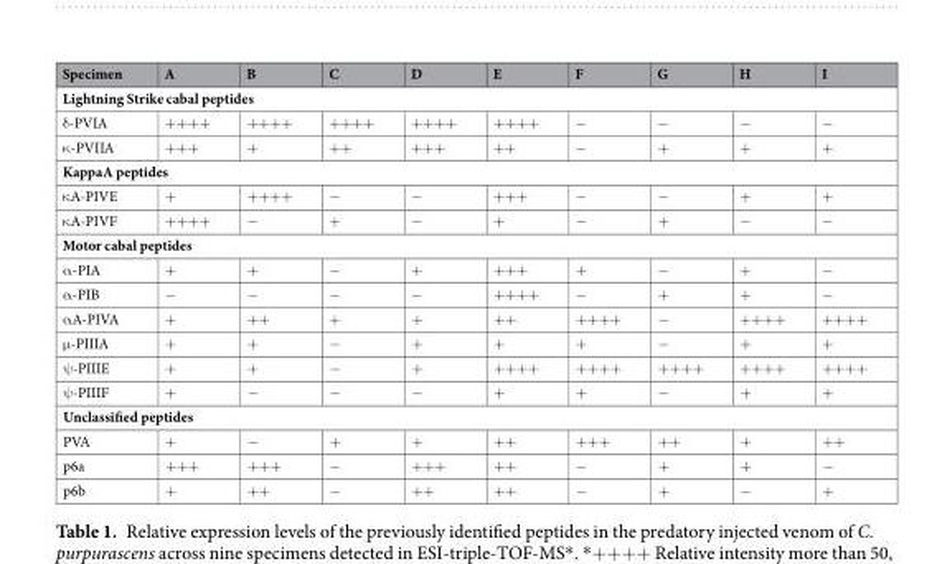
<table><thead><tr><td>Specimen</td><td>A</td><td>B</td><td>C</td><td>D</td><td>E</td><td>F</td><td>G</td><td>H</td><td>I</td></tr></thead><tbody><tr><td colspan="10">Lightning Strike cabal peptides</td></tr><tr><td>δ-PVIA</td><td>++++</td><td>++++</td><td>++++</td><td>++++</td><td>++++</td><td>−</td><td>−</td><td>−</td><td>−</td></tr><tr><td>κ-PVIIA</td><td>+++</td><td>+</td><td>++</td><td>+++</td><td>++</td><td>−</td><td>+</td><td>+</td><td>+</td></tr><tr><td colspan="10">KappaA peptides</td></tr><tr><td>κA-PIVE</td><td>+</td><td>++++</td><td>−</td><td>−</td><td>+++</td><td>−</td><td>−</td><td>+</td><td>+</td></tr><tr><td>κA-PIVF</td><td>++++</td><td>−</td><td>+</td><td>−</td><td>+</td><td>−</td><td>+</td><td>−</td><td>−</td></tr><tr><td colspan="10">Motor cabal peptides</td></tr><tr><td>α-PIA</td><td>+</td><td>+</td><td>−</td><td>+</td><td>+++</td><td>+</td><td>−</td><td>+</td><td>−</td></tr><tr><td>α-PIB</td><td>−</td><td>−</td><td>−</td><td>−</td><td>++++</td><td>−</td><td>+</td><td>+</td><td>−</td></tr><tr><td>αA-PIVA</td><td>+</td><td>++</td><td>+</td><td>+</td><td>++</td><td>++++</td><td>−</td><td>++++</td><td>++++</td></tr><tr><td>μ-PIIIA</td><td>+</td><td>+</td><td>−</td><td>+</td><td>+</td><td>+</td><td>−</td><td>+</td><td>+</td></tr><tr><td>ψ-PIIIE</td><td>+</td><td>+</td><td>−</td><td>+</td><td>++++</td><td>++++</td><td>++++</td><td>++++</td><td>++++</td></tr><tr><td>ψ-PIIIF</td><td>+</td><td>−</td><td>−</td><td>−</td><td>+</td><td>+</td><td>−</td><td>+</td><td>+</td></tr><tr><td colspan="10">Unclassified peptides</td></tr><tr><td>PVA</td><td>+</td><td>−</td><td>+</td><td>+</td><td>++</td><td>+++</td><td>++</td><td>+</td><td>++</td></tr><tr><td>p6a</td><td>+++</td><td>+++</td><td>−</td><td>+++</td><td>++</td><td>−</td><td>+</td><td>+</td><td>−</td></tr><tr><td>p6b</td><td>+</td><td>++</td><td>−</td><td>++</td><td>++</td><td>−</td><td>+</td><td>−</td><td>+</td></tr></tbody></table>